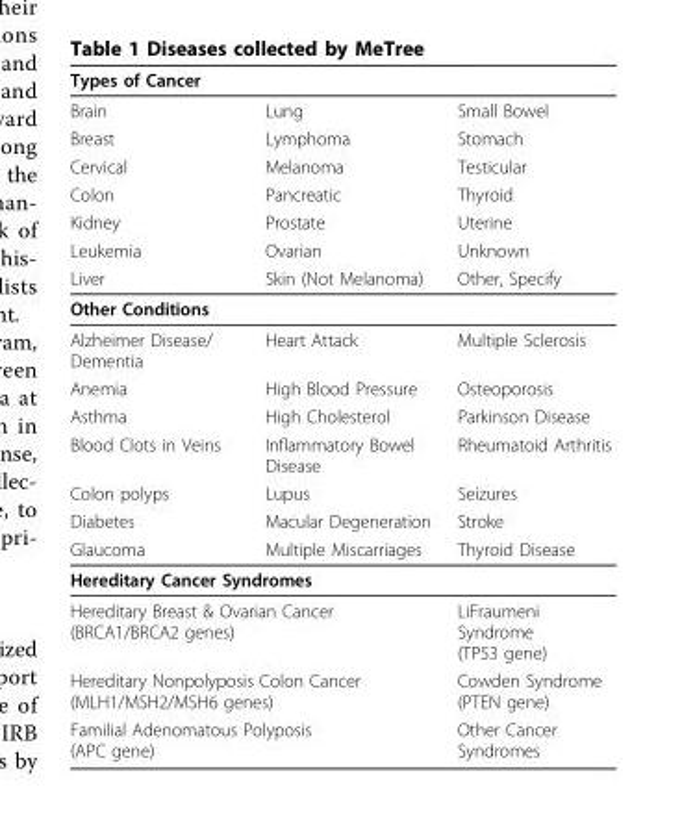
<table><thead><tr><td>Types of Cancer</td><td></td><td></td></tr></thead><tbody><tr><td>Brain</td><td>Lung</td><td>Small Bowel</td></tr><tr><td>Breast</td><td>Lymphoma</td><td>Stomach</td></tr><tr><td>Cervical</td><td>Melanoma</td><td>Testicular</td></tr><tr><td>Colon</td><td>Pancreatic</td><td>Thyroid</td></tr><tr><td>Kidney</td><td>Prostate</td><td>Uterine</td></tr><tr><td>Leukemia</td><td>Ovarian</td><td>Unknown</td></tr><tr><td>Liver</td><td>Skin (Not Melanoma)</td><td>Other, Specify</td></tr><tr><td colspan="3">Other Conditions</td></tr><tr><td>Alzheimer Disease/ Dementia</td><td>Heart Attack</td><td>Multiple Sclerosis</td></tr><tr><td>Anemia</td><td>High Blood Pressure</td><td>Osteoporosis</td></tr><tr><td>Asthma</td><td>High Cholesterol</td><td>Parkinson Disease</td></tr><tr><td>Blood Clots in Veins</td><td>Inflammatory Bowel Disease</td><td>Rheumatoid Arthritis</td></tr><tr><td>Colon polyps</td><td>Lupus</td><td>Seizures</td></tr><tr><td>Diabetes</td><td>Macular Degeneration</td><td>Stroke</td></tr><tr><td>Glaucoma</td><td>Multiple Miscarriages</td><td>Thyroid Disease</td></tr><tr><td colspan="3">Hereditary Cancer Syndromes</td></tr><tr><td colspan="2">Hereditary Breast &amp; Ovarian Cancer (BRCA1/BRCA2 genes)</td><td>LiFraumeni Syndrome (TP53 gene)</td></tr><tr><td colspan="2">Hereditary Nonpolyposis Colon Cancer (MLH1/MSH2/MSH6 genes)</td><td>Cowden Syndrome (PTEN gene)</td></tr><tr><td colspan="2">Familial Adenomatous Polyposis (APC gene)</td><td>Other Cancer Syndromes</td></tr></tbody></table>